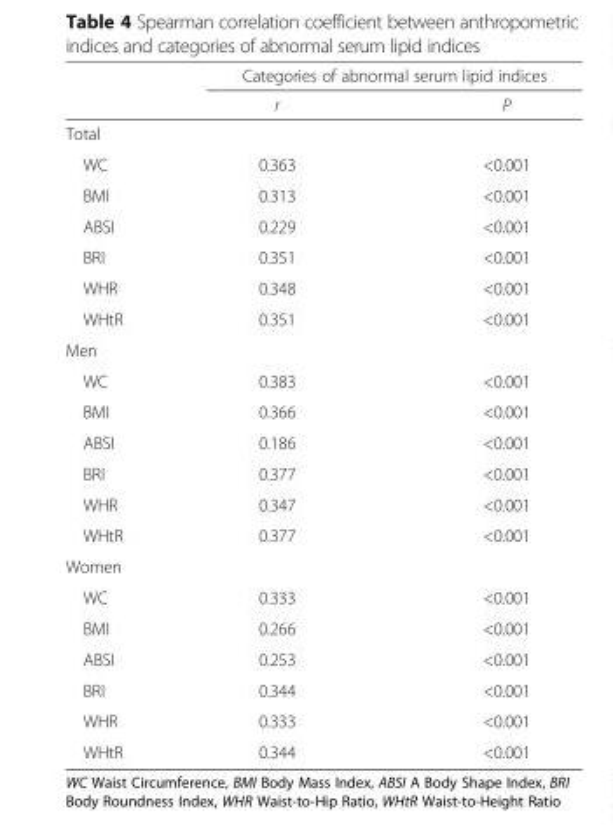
<table><thead><tr><td rowspan="2"></td><td colspan="2">Categories of abnormal serum lipid indices</td></tr><tr><td>r</td><td>P</td></tr></thead><tbody><tr><td colspan="3">Total</td></tr><tr><td>WC</td><td>0.363</td><td>&lt;0.001</td></tr><tr><td>BMI</td><td>0.313</td><td>&lt;0.001</td></tr><tr><td>ABSI</td><td>0.229</td><td>&lt;0.001</td></tr><tr><td>BRI</td><td>0.351</td><td>&lt;0.001</td></tr><tr><td>WHR</td><td>0.348</td><td>&lt;0.001</td></tr><tr><td>WHtR</td><td>0.351</td><td>&lt;0.001</td></tr><tr><td colspan="3">Men</td></tr><tr><td>WC</td><td>0.383</td><td>&lt;0.001</td></tr><tr><td>BMI</td><td>0.366</td><td>&lt;0.001</td></tr><tr><td>ABSI</td><td>0.186</td><td>&lt;0.001</td></tr><tr><td>BRI</td><td>0.377</td><td>&lt;0.001</td></tr><tr><td>WHR</td><td>0.347</td><td>&lt;0.001</td></tr><tr><td>WHtR</td><td>0.377</td><td>&lt;0.001</td></tr><tr><td colspan="3">Women</td></tr><tr><td>WC</td><td>0.333</td><td>&lt;0.001</td></tr><tr><td>BMI</td><td>0.266</td><td>&lt;0.001</td></tr><tr><td>ABSI</td><td>0.253</td><td>&lt;0.001</td></tr><tr><td>BRI</td><td>0.344</td><td>&lt;0.001</td></tr><tr><td>WHR</td><td>0.333</td><td>&lt;0.001</td></tr><tr><td>WHtR</td><td>0.344</td><td>&lt;0.001</td></tr></tbody></table>